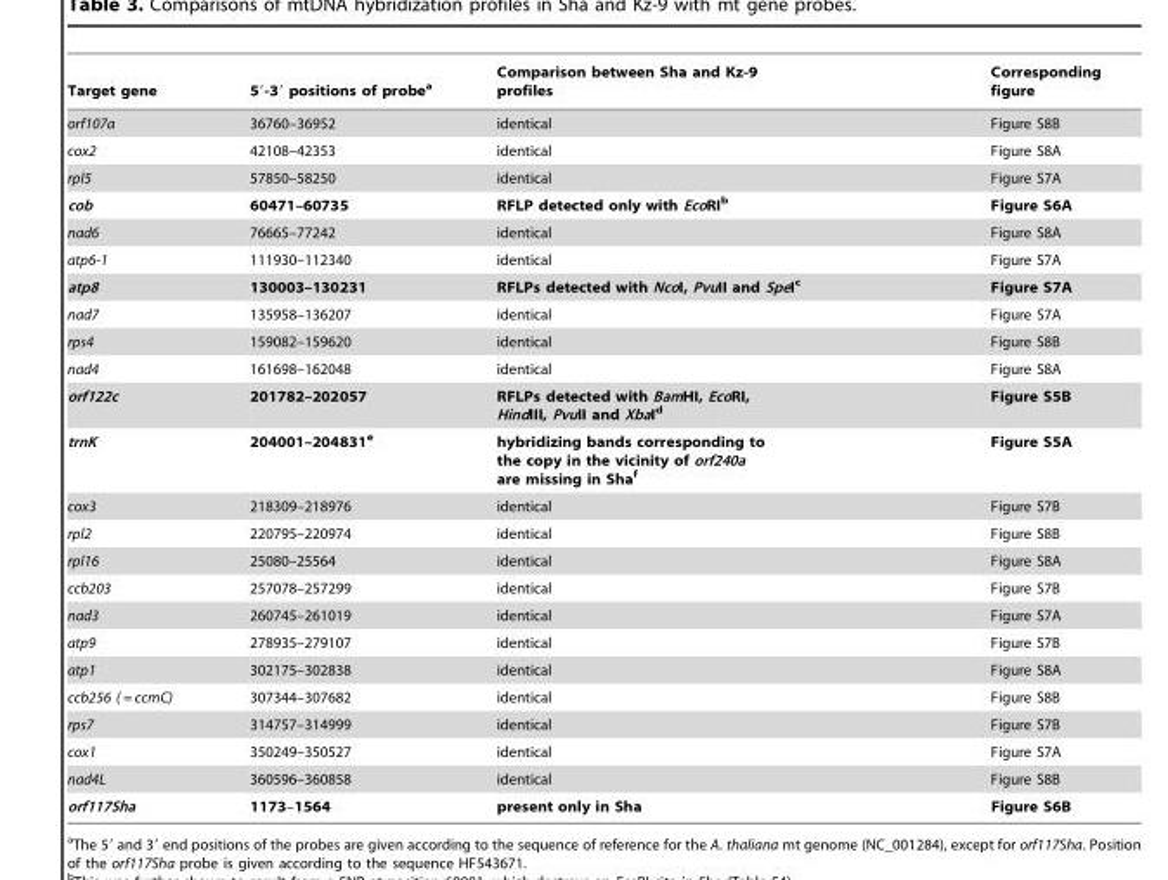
<table><thead><tr><td>Target gene</td><td>5′-3′ positions of probe<sup>a</sup></td><td>Comparison between Sha and Kz-9 profiles</td><td>Corresponding figure</td></tr></thead><tbody><tr><td>orf107a</td><td>36760–36952</td><td>identical</td><td>Figure S8B</td></tr><tr><td>cox2</td><td>42108–42353</td><td>identical</td><td>Figure S8A</td></tr><tr><td>rpl5</td><td>57850–58250</td><td>identical</td><td>Figure S7A</td></tr><tr><td>cob</td><td>60471–60735</td><td>RFLP detected only with EcoRIb</td><td>Figure S6A</td></tr><tr><td>nad6</td><td>76665–77242</td><td>identical</td><td>Figure S8A</td></tr><tr><td>atp6-1</td><td>111930–112340</td><td>identical</td><td>Figure S7A</td></tr><tr><td>atp8</td><td>130003–130231</td><td>RFLPs detected with NcoI, PvuII and SpeIc</td><td>Figure S7A</td></tr><tr><td>nad7</td><td>135958–136207</td><td>identical</td><td>Figure S7A</td></tr><tr><td>rps4</td><td>159082–159620</td><td>identical</td><td>Figure S8B</td></tr><tr><td>nad4</td><td>161698–162048</td><td>identical</td><td>Figure S8A</td></tr><tr><td>orf122c</td><td>201782–202057</td><td>RFLPs detected with BamHI, EcoRI, HindIII, PvuII and XbaId</td><td>Figure S5B</td></tr><tr><td>trnK</td><td>204001–204831e</td><td>hybridizing bands corresponding to the copy in the vicinity of orf240a are missing in Shaf</td><td>Figure S5A</td></tr><tr><td>cox3</td><td>218309–218976</td><td>identical</td><td>Figure S7B</td></tr><tr><td>rpl2</td><td>220795–220974</td><td>identical</td><td>Figure S8B</td></tr><tr><td>rpl16</td><td>25080–25564</td><td>identical</td><td>Figure S8A</td></tr><tr><td>ccb203</td><td>257078–257299</td><td>identical</td><td>Figure S7B</td></tr><tr><td>nad3</td><td>260745–261019</td><td>identical</td><td>Figure S7A</td></tr><tr><td>atp9</td><td>278935–279107</td><td>identical</td><td>Figure S7B</td></tr><tr><td>atp1</td><td>302175–302838</td><td>identical</td><td>Figure S8A</td></tr><tr><td>ccb256 ( = ccmC)</td><td>307344–307682</td><td>identical</td><td>Figure S8B</td></tr><tr><td>rps7</td><td>314757–314999</td><td>identical</td><td>Figure S7B</td></tr><tr><td>cox1</td><td>350249–350527</td><td>identical</td><td>Figure S7A</td></tr><tr><td>nad4L</td><td>360596–360858</td><td>identical</td><td>Figure S8B</td></tr><tr><td>orf117Sha</td><td>1173–1564</td><td>present only in Sha</td><td>Figure S6B</td></tr></tbody></table>